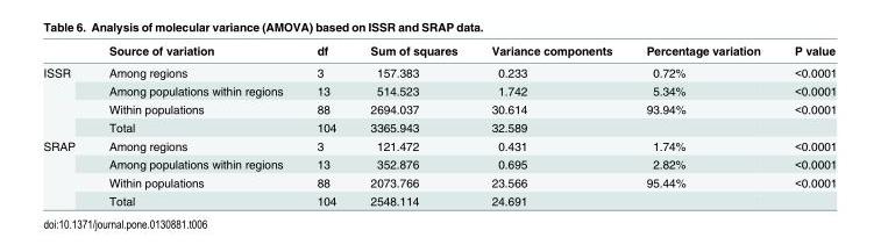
<table><thead><tr><td></td><td>Source of variation</td><td>df</td><td>Sum of squares</td><td>Variance components</td><td>Percentage variation</td><td>P value</td></tr></thead><tbody><tr><td rowspan="4">ISSR</td><td>Among regions</td><td>3</td><td>157.383</td><td>0.233</td><td>0.72%</td><td>&lt;0.0001</td></tr><tr><td>Among populations within regions</td><td>13</td><td>514.523</td><td>1.742</td><td>5.34%</td><td>&lt;0.0001</td></tr><tr><td>Within populations</td><td>88</td><td>2694.037</td><td>30.614</td><td>93.94%</td><td>&lt;0.0001</td></tr><tr><td>Total</td><td>104</td><td>3365.943</td><td>32.589</td><td></td><td></td></tr><tr><td rowspan="4">SRAP</td><td>Among regions</td><td>3</td><td>121.472</td><td>0.431</td><td>1.74%</td><td>&lt;0.0001</td></tr><tr><td>Among populations within regions</td><td>13</td><td>352.876</td><td>0.695</td><td>2.82%</td><td>&lt;0.0001</td></tr><tr><td>Within populations</td><td>88</td><td>2073.766</td><td>23.566</td><td>95.44%</td><td>&lt;0.0001</td></tr><tr><td>Total</td><td>104</td><td>2548.114</td><td>24.691</td><td></td><td></td></tr></tbody></table>